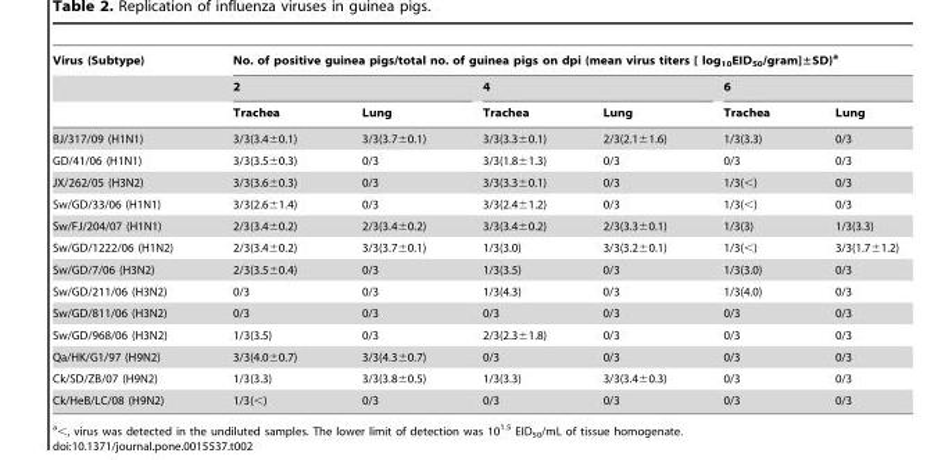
<table><thead><tr><td rowspan="3">Virus (Subtype)</td><td colspan="6">No. of positive guinea pigs/total no. of guinea pigs on dpi (mean virus titers [ log<sub>10</sub>EID<sub>50</sub>/gram]±SD)<sup>a</sup></td></tr><tr><td colspan="2">2</td><td colspan="2">4</td><td colspan="2">6</td></tr><tr><td>Trachea</td><td>Lung</td><td>Trachea</td><td>Lung</td><td>Trachea</td><td>Lung</td></tr></thead><tbody><tr><td>BJ/317/09 (H1N1)</td><td>3/3(3.4±0.1)</td><td>3/3(3.7±0.1)</td><td>3/3(3.3±0.1)</td><td>2/3(2.1±1.6)</td><td>1/3(3.3)</td><td>0/3</td></tr><tr><td>GD/41/06 (H1N1)</td><td>3/3(3.5±0.3)</td><td>0/3</td><td>3/3(1.8±1.3)</td><td>0/3</td><td>0/3</td><td>0/3</td></tr><tr><td>JX/262/05 (H3N2)</td><td>3/3(3.6±0.3)</td><td>0/3</td><td>3/3(3.3±0.1)</td><td>0/3</td><td>1/3(&lt;)</td><td>0/3</td></tr><tr><td>Sw/GD/33/06 (H1N1)</td><td>3/3(2.6±1.4)</td><td>0/3</td><td>3/3(2.4±1.2)</td><td>0/3</td><td>1/3(&lt;)</td><td>0/3</td></tr><tr><td>Sw/FJ/204/07 (H1N1)</td><td>2/3(3.4±0.2)</td><td>2/3(3.4±0.2)</td><td>3/3(3.4±0.2)</td><td>2/3(3.3±0.1)</td><td>1/3(3)</td><td>1/3(3.3)</td></tr><tr><td>Sw/GD/1222/06 (H1N2)</td><td>2/3(3.4±0.2)</td><td>3/3(3.7±0.1)</td><td>1/3(3.0)</td><td>3/3(3.2±0.1)</td><td>1/3(&lt;)</td><td>3/3(1.7±1.2)</td></tr><tr><td>Sw/GD/7/06 (H3N2)</td><td>2/3(3.5±0.4)</td><td>0/3</td><td>1/3(3.5)</td><td>0/3</td><td>1/3(3.0)</td><td>0/3</td></tr><tr><td>Sw/GD/211/06 (H3N2)</td><td>0/3</td><td>0/3</td><td>1/3(4.3)</td><td>0/3</td><td>1/3(4.0)</td><td>0/3</td></tr><tr><td>Sw/GD/811/06 (H3N2)</td><td>0/3</td><td>0/3</td><td>0/3</td><td>0/3</td><td>0/3</td><td>0/3</td></tr><tr><td>Sw/GD/968/06 (H3N2)</td><td>1/3(3.5)</td><td>0/3</td><td>2/3(2.3±1.8)</td><td>0/3</td><td>0/3</td><td>0/3</td></tr><tr><td>Qa/HK/G1/97 (H9N2)</td><td>3/3(4.0±0.7)</td><td>3/3(4.3±0.7)</td><td>0/3</td><td>0/3</td><td>0/3</td><td>0/3</td></tr><tr><td>Ck/SD/ZB/07 (H9N2)</td><td>1/3(3.3)</td><td>3/3(3.8±0.5)</td><td>1/3(3.3)</td><td>3/3(3.4±0.3)</td><td>0/3</td><td>0/3</td></tr><tr><td>Ck/HeB/LC/08 (H9N2)</td><td>1/3(&lt;)</td><td>0/3</td><td>0/3</td><td>0/3</td><td>0/3</td><td>0/3</td></tr></tbody></table>